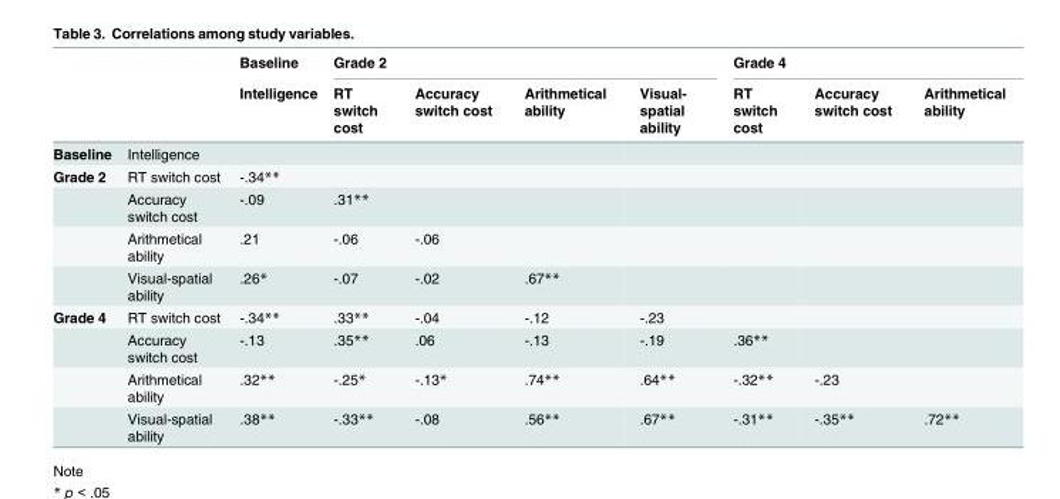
<table><thead><tr><td rowspan="2"></td><td rowspan="2"></td><td rowspan="2">Baseline Intelligence</td><td colspan="4">Grade 2</td><td colspan="3">Grade 4</td></tr><tr><td>RT switch cost</td><td>Accuracy switch cost</td><td>Arithmetical ability</td><td>Visual- spatial ability</td><td>RT switch cost</td><td>Accuracy switch cost</td><td>Arithmetical ability</td></tr></thead><tbody><tr><td>Baseline</td><td>Intelligence</td><td></td><td></td><td></td><td></td><td></td><td></td><td></td><td></td></tr><tr><td rowspan="4">Grade 2</td><td>RT switch cost</td><td>-.34**</td><td></td><td></td><td></td><td></td><td></td><td></td><td></td></tr><tr><td>Accuracy switch cost</td><td>-.09</td><td>.31**</td><td></td><td></td><td></td><td></td><td></td><td></td></tr><tr><td>Arithmetical ability</td><td>.21</td><td>-.06</td><td>-.06</td><td></td><td></td><td></td><td></td><td></td></tr><tr><td>Visual-spatial ability</td><td>.26*</td><td>-.07</td><td>-.02</td><td>.67**</td><td></td><td></td><td></td><td></td></tr><tr><td rowspan="4">Grade 4</td><td>RT switch cost</td><td>-.34**</td><td>.33**</td><td>-.04</td><td>-.12</td><td>-.23</td><td></td><td></td><td></td></tr><tr><td>Accuracy switch cost</td><td>-.13</td><td>.35**</td><td>.06</td><td>-.13</td><td>-.19</td><td>.36**</td><td></td><td></td></tr><tr><td>Arithmetical ability</td><td>.32**</td><td>-.25*</td><td>-.13*</td><td>.74**</td><td>.64**</td><td>-.32**</td><td>-.23</td><td></td></tr><tr><td>Visual-spatial ability</td><td>.38**</td><td>-.33**</td><td>-.08</td><td>.56**</td><td>.67**</td><td>-.31**</td><td>-.35**</td><td>.72**</td></tr></tbody></table>